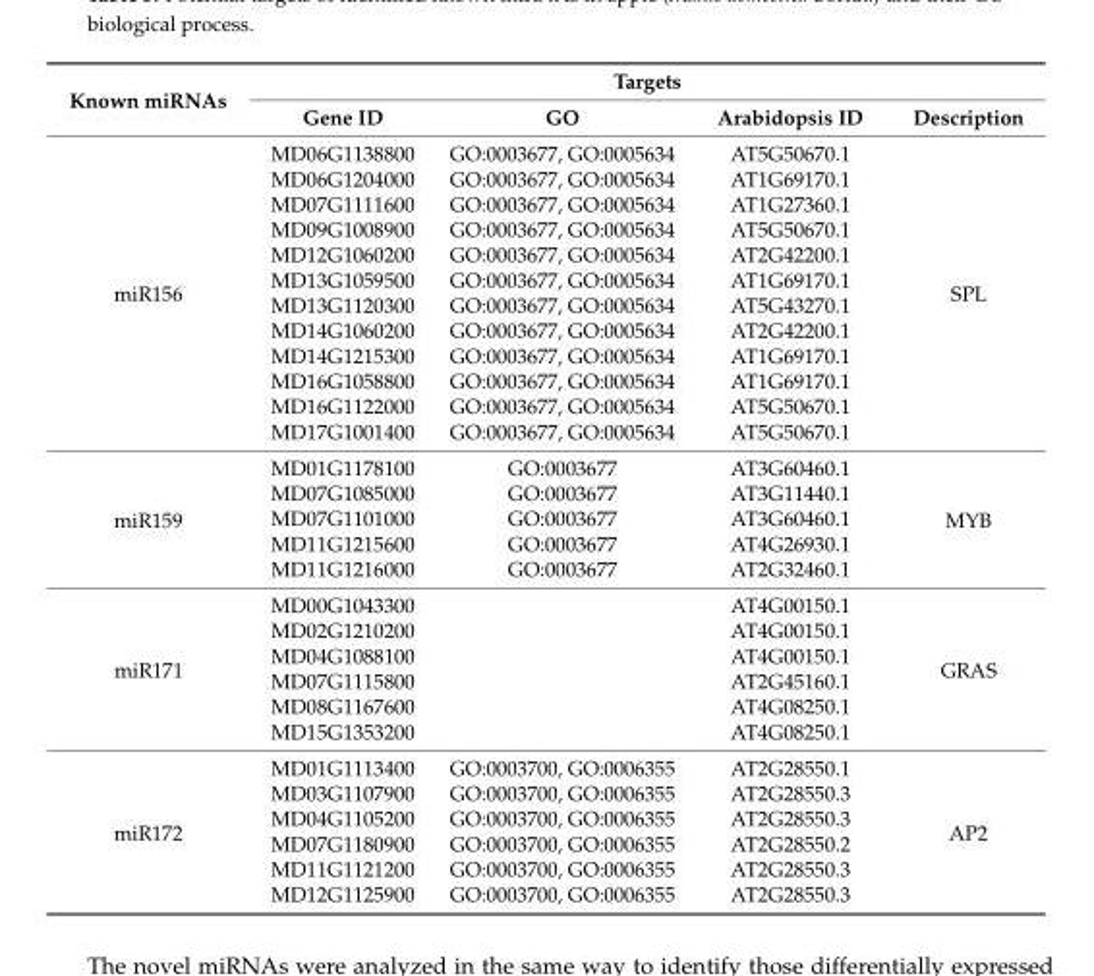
<table><thead><tr><td rowspan="2">Known miRNAs</td><td colspan="4">Targets</td></tr><tr><td>Gene ID</td><td>GO</td><td>Arabidopsis ID</td><td>Description</td></tr></thead><tbody><tr><td rowspan="12">miR156</td><td>MD06G1138800</td><td>GO:0003677, GO:0005634</td><td>AT5G50670.1</td><td rowspan="12">SPL</td></tr><tr><td>MD06G1204000</td><td>GO:0003677, GO:0005634</td><td>AT1G69170.1</td></tr><tr><td>MD07G1111600</td><td>GO:0003677, GO:0005634</td><td>AT1G27360.1</td></tr><tr><td>MD09G1008900</td><td>GO:0003677, GO:0005634</td><td>AT5G50670.1</td></tr><tr><td>MD12G1060200</td><td>GO:0003677, GO:0005634</td><td>AT2G42200.1</td></tr><tr><td>MD13G1059500</td><td>GO:0003677, GO:0005634</td><td>AT1G69170.1</td></tr><tr><td>MD13G1120300</td><td>GO:0003677, GO:0005634</td><td>AT5G43270.1</td></tr><tr><td>MD14G1060200</td><td>GO:0003677, GO:0005634</td><td>AT2G42200.1</td></tr><tr><td>MD14G1215300</td><td>GO:0003677, GO:0005634</td><td>AT1G69170.1</td></tr><tr><td>MD16G1058800</td><td>GO:0003677, GO:0005634</td><td>AT1G69170.1</td></tr><tr><td>MD16G1122000</td><td>GO:0003677, GO:0005634</td><td>AT5G50670.1</td></tr><tr><td>MD17G1001400</td><td>GO:0003677, GO:0005634</td><td>AT5G50670.1</td></tr><tr><td rowspan="5">miR159</td><td>MD01G1178100</td><td>GO:0003677</td><td>AT3G60460.1</td><td rowspan="5">MYB</td></tr><tr><td>MD07G1085000</td><td>GO:0003677</td><td>AT3G11440.1</td></tr><tr><td>MD07G1101000</td><td>GO:0003677</td><td>AT3G60460.1</td></tr><tr><td>MD11G1215600</td><td>GO:0003677</td><td>AT4G26930.1</td></tr><tr><td>MD11G1216000</td><td>GO:0003677</td><td>AT2G32460.1</td></tr><tr><td rowspan="6">miR171</td><td>MD00G1043300</td><td></td><td>AT4G00150.1</td><td rowspan="6">GRAS</td></tr><tr><td>MD02G1210200</td><td></td><td>AT4G00150.1</td></tr><tr><td>MD04G1088100</td><td></td><td>AT4G00150.1</td></tr><tr><td>MD07G1115800</td><td></td><td>AT2G45160.1</td></tr><tr><td>MD08G1167600</td><td></td><td>AT4G08250.1</td></tr><tr><td>MD15G1353200</td><td></td><td>AT4G08250.1</td></tr><tr><td rowspan="6">miR172</td><td>MD01G1113400</td><td>GO:0003700, GO:0006355</td><td>AT2G28550.1</td><td rowspan="6">AP2</td></tr><tr><td>MD03G1107900</td><td>GO:0003700, GO:0006355</td><td>AT2G28550.3</td></tr><tr><td>MD04G1105200</td><td>GO:0003700, GO:0006355</td><td>AT2G28550.3</td></tr><tr><td>MD07G1180900</td><td>GO:0003700, GO:0006355</td><td>AT2G28550.2</td></tr><tr><td>MD11G1121200</td><td>GO:0003700, GO:0006355</td><td>AT2G28550.3</td></tr><tr><td>MD12G1125900</td><td>GO:0003700, GO:0006355</td><td>AT2G28550.3</td></tr></tbody></table>